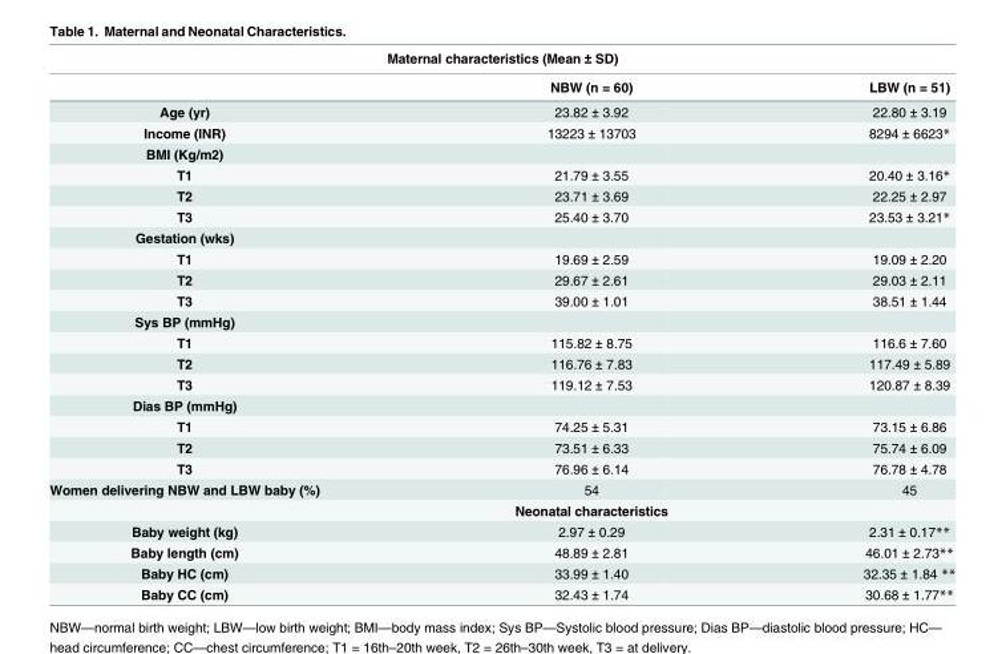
<table><thead><tr><td colspan="3">Maternal characteristics (Mean ± SD)</td></tr><tr><td></td><td>NBW (n = 60)</td><td>LBW (n = 51)</td></tr></thead><tbody><tr><td>Age (yr)</td><td>23.82 ± 3.92</td><td>22.80 ± 3.19</td></tr><tr><td>Income (INR)</td><td>13223 ± 13703</td><td>8294 ± 6623*</td></tr><tr><td colspan="3">BMI (Kg/m2)</td></tr><tr><td>T1</td><td>21.79 ± 3.55</td><td>20.40 ± 3.16*</td></tr><tr><td>T2</td><td>23.71 ± 3.69</td><td>22.25 ± 2.97</td></tr><tr><td>T3</td><td>25.40 ± 3.70</td><td>23.53 ± 3.21*</td></tr><tr><td colspan="3">Gestation (wks)</td></tr><tr><td>T1</td><td>19.69 ± 2.59</td><td>19.09 ± 2.20</td></tr><tr><td>T2</td><td>29.67 ± 2.61</td><td>29.03 ± 2.11</td></tr><tr><td>T3</td><td>39.00 ± 1.01</td><td>38.51 ± 1.44</td></tr><tr><td colspan="3">Sys BP (mmHg)</td></tr><tr><td>T1</td><td>115.82 ± 8.75</td><td>116.6 ± 7.60</td></tr><tr><td>T2</td><td>116.76 ± 7.83</td><td>117.49 ± 5.89</td></tr><tr><td>T3</td><td>119.12 ± 7.53</td><td>120.87 ± 8.39</td></tr><tr><td colspan="3">Dias BP (mmHg)</td></tr><tr><td>T1</td><td>74.25 ± 5.31</td><td>73.15 ± 6.86</td></tr><tr><td>T2</td><td>73.51 ± 6.33</td><td>75.74 ± 6.09</td></tr><tr><td>T3</td><td>76.96 ± 6.14</td><td>76.78 ± 4.78</td></tr><tr><td rowspan="2">Women delivering NBW and LBW baby (%)</td><td>54</td><td>45</td></tr><tr><td>Neonatal characteristics</td><td></td></tr><tr><td>Baby weight (kg)</td><td>2.97 ± 0.29</td><td>2.31 ± 0.17**</td></tr><tr><td>Baby length (cm)</td><td>48.89 ± 2.81</td><td>46.01 ± 2.73**</td></tr><tr><td>Baby HC (cm)</td><td>33.99 ± 1.40</td><td>32.35 ± 1.84 **</td></tr><tr><td>Baby CC (cm)</td><td>32.43 ± 1.74</td><td>30.68 ± 1.77**</td></tr></tbody></table>